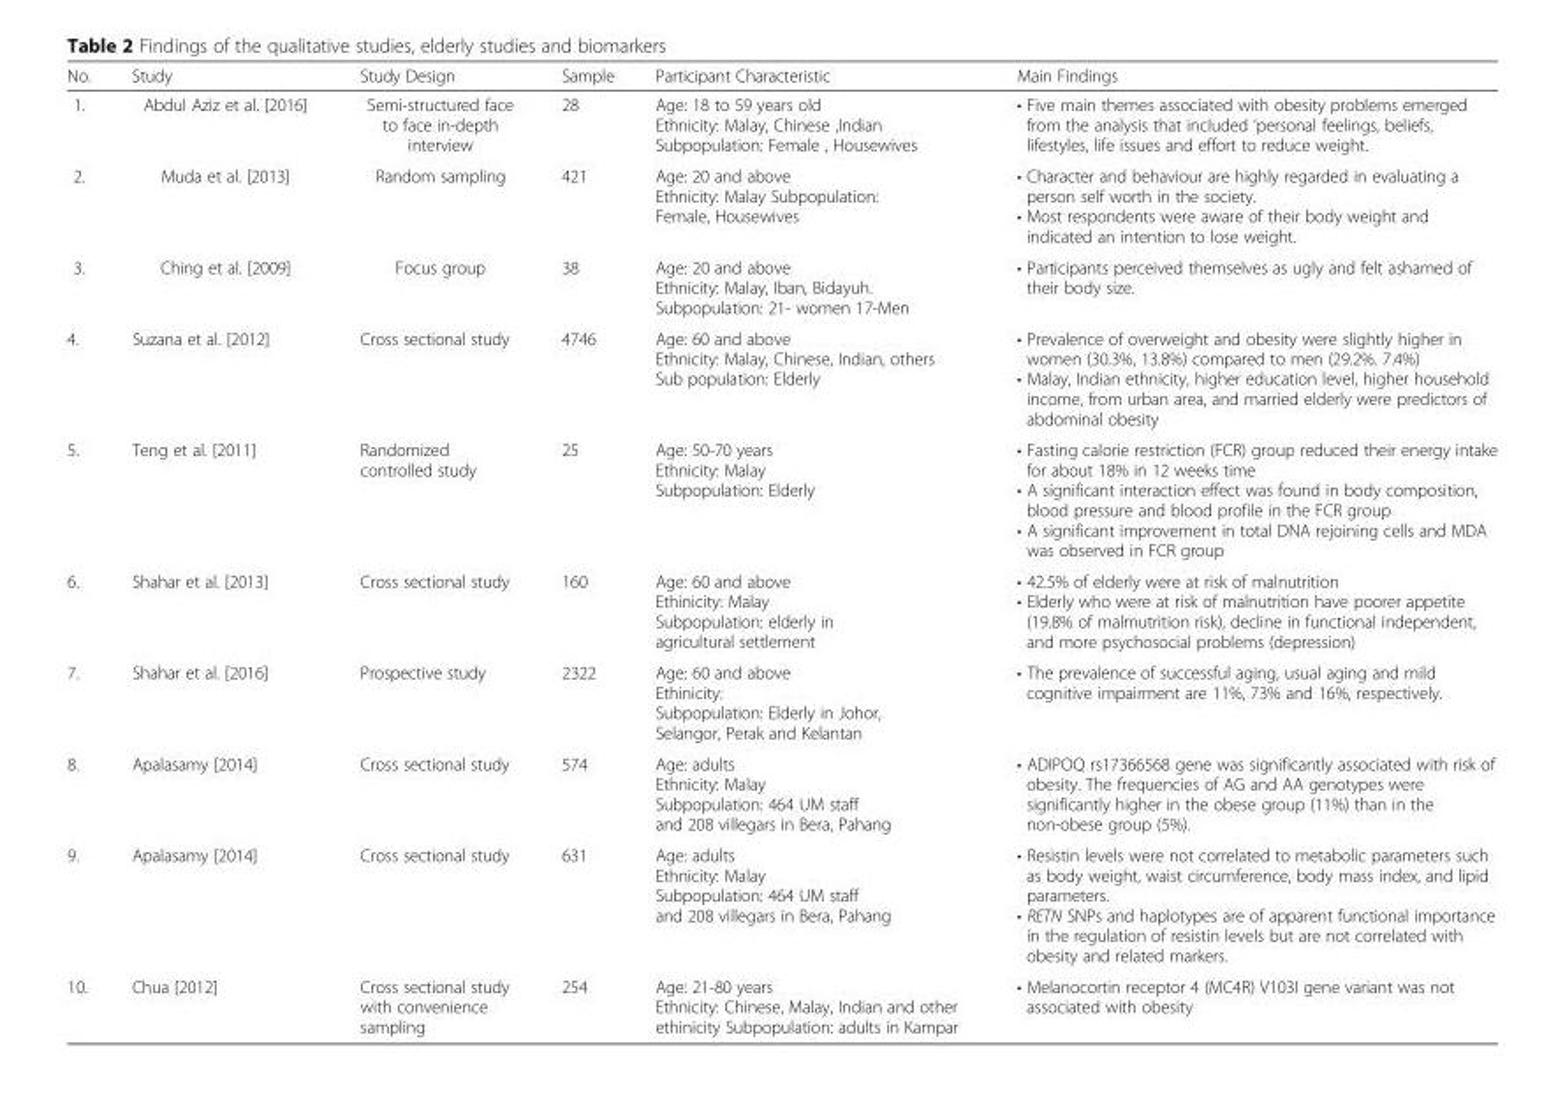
<table><thead><tr><td>No.</td><td>Study</td><td>Study Design</td><td>Sample</td><td>Participant Characteristic</td><td>Main Findings</td></tr></thead><tbody><tr><td>1.</td><td>Abdul Aziz et al. [2016]</td><td>Semi-structured face to face in-depth interview</td><td>28</td><td>Age: 18 to 59 years old Ethnicity: Malay, Chinese ,Indian Subpopulation: Female , Housewives</td><td>• Five main themes associated with obesity problems emerged from the analysis that included ‘personal feelings, beliefs, lifestyles, life issues and effort to reduce weight.</td></tr><tr><td>2.</td><td>Muda et al. [2013]</td><td>Random sampling</td><td>421</td><td>Age: 20 and above Ethnicity: Malay Subpopulation: Female, Housewives</td><td>• Character and behaviour are highly regarded in evaluating a person self worth in the society. • Most respondents were aware of their body weight and indicated an intention to lose weight.</td></tr><tr><td>3.</td><td>Ching et al. [2009]</td><td>Focus group</td><td>38</td><td>Age: 20 and above Ethnicity: Malay, Iban, Bidayuh. Subpopulation: 21- women 17-Men</td><td>• Participants perceived themselves as ugly and felt ashamed of their body size.</td></tr><tr><td>4.</td><td>Suzana et al. [2012]</td><td>Cross sectional study</td><td>4746</td><td>Age: 60 and above Ethnicity: Malay, Chinese, Indian, others Sub population: Elderly</td><td>• Prevalence of overweight and obesity were slightly higher in women (30.3%, 13.8%) compared to men (29.2%. 7.4%) • Malay, Indian ethnicity, higher education level, higher household income, from urban area, and married elderly were predictors of abdominal obesity</td></tr><tr><td>5.</td><td>Teng et al. [2011]</td><td>Randomized controlled study</td><td>25</td><td>Age: 50-70 years Ethnicity: Malay Subpopulation: Elderly</td><td>• Fasting calorie restriction (FCR) group reduced their energy intake for about 18% in 12 weeks time • A significant interaction effect was found in body composition, blood pressure and blood profile in the FCR group • A significant improvement in total DNA rejoining cells and MDA was observed in FCR group</td></tr><tr><td>6.</td><td>Shahar et al. [2013]</td><td>Cross sectional study</td><td>160</td><td>Age: 60 and above Ethinicity: Malay Subpopulation: elderly in agricultural settlement</td><td>• 42.5% of elderly were at risk of malnutrition • Elderly who were at risk of malnutrition have poorer appetite (19.8% of malmutrition risk), decline in functional independent, and more psychosocial problems (depression)</td></tr><tr><td>7.</td><td>Shahar et al. [2016]</td><td>Prospective study</td><td>2322</td><td>Age: 60 and above Ethinicity: Subpopulation: Elderly in Johor, Selangor, Perak and Kelantan</td><td>• The prevalence of successful aging, usual aging and mild cognitive impairment are 11%, 73% and 16%, respectively.</td></tr><tr><td>8.</td><td>Apalasamy [2014]</td><td>Cross sectional study</td><td>574</td><td>Age: adults Ethnicity: Malay Subpopulation: 464 UM staff and 208 villegars in Bera, Pahang</td><td>• ADIPOQ rs17366568 gene was significantly associated with risk of obesity. The frequencies of AG and AA genotypes were significantly higher in the obese group (11%) than in the non-obese group (5%).</td></tr><tr><td>9.</td><td>Apalasamy [2014]</td><td>Cross sectional study</td><td>631</td><td>Age: adults Ethnicity: Malay Subpopulation: 464 UM staff and 208 villegars in Bera, Pahang</td><td>• Resistin levels were not correlated to metabolic parameters such as body weight, waist circumference, body mass index, and lipid parameters. • RETN SNPs and haplotypes are of apparent functional importance in the regulation of resistin levels but are not correlated with obesity and related markers.</td></tr><tr><td>10.</td><td>Chua [2012]</td><td>Cross sectional study with convenience sampling</td><td>254</td><td>Age: 21-80 years Ethnicity: Chinese, Malay, Indian and other ethinicity Subpopulation: adults in Kampar</td><td>• Melanocortin receptor 4 (MC4R) V103I gene variant was not associated with obesity</td></tr></tbody></table>